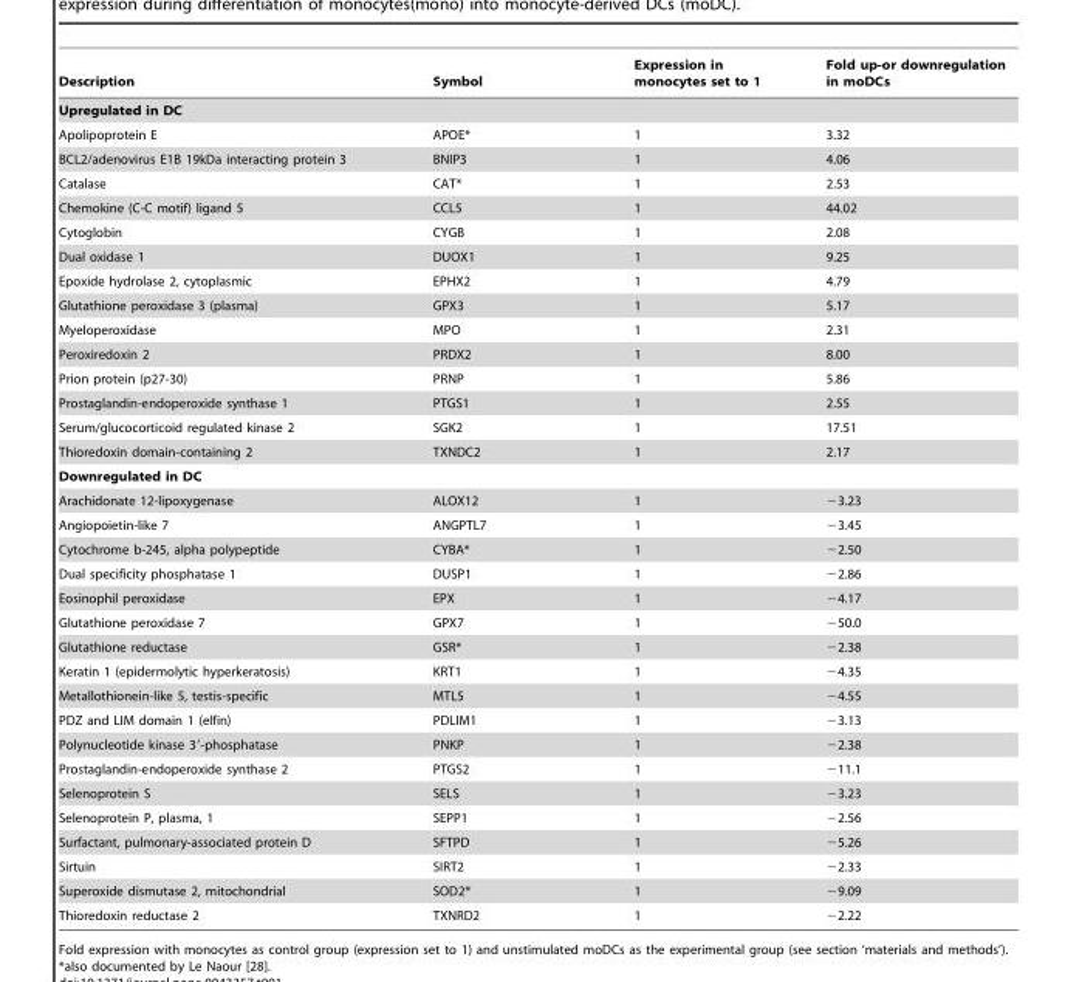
<table><thead><tr><td>Description</td><td>Symbol</td><td>Expression in monocytes set to 1</td><td>Fold up-or downregulation in moDCs</td></tr></thead><tbody><tr><td colspan="4">Upregulated in DC</td></tr><tr><td>Apolipoprotein E</td><td>APOE*</td><td>1</td><td>3.32</td></tr><tr><td>BCL2/adenovirus E1B 19kDa interacting protein 3</td><td>BNIP3</td><td>1</td><td>4.06</td></tr><tr><td>Catalase</td><td>CAT*</td><td>1</td><td>2.53</td></tr><tr><td>Chemokine (C-C motif) ligand 5</td><td>CCL5</td><td>1</td><td>44.02</td></tr><tr><td>Cytoglobin</td><td>CYGB</td><td>1</td><td>2.08</td></tr><tr><td>Dual oxidase 1</td><td>DUOX1</td><td>1</td><td>9.25</td></tr><tr><td>Epoxide hydrolase 2, cytoplasmic</td><td>EPHX2</td><td>1</td><td>4.79</td></tr><tr><td>Glutathione peroxidase 3 (plasma)</td><td>GPX3</td><td>1</td><td>5.17</td></tr><tr><td>Myeloperoxidase</td><td>MPO</td><td>1</td><td>2.31</td></tr><tr><td>Peroxiredoxin 2</td><td>PRDX2</td><td>1</td><td>8.00</td></tr><tr><td>Prion protein (p27-30)</td><td>PRNP</td><td>1</td><td>5.86</td></tr><tr><td>Prostaglandin-endoperoxide synthase 1</td><td>PTGS1</td><td>1</td><td>2.55</td></tr><tr><td>Serum/glucocorticoid regulated kinase 2</td><td>SGK2</td><td>1</td><td>17.51</td></tr><tr><td>Thioredoxin domain-containing 2</td><td>TXNDC2</td><td>1</td><td>2.17</td></tr><tr><td colspan="4">Downregulated in DC</td></tr><tr><td>Arachidonate 12-lipoxygenase</td><td>ALOX12</td><td>1</td><td>−3.23</td></tr><tr><td>Angiopoietin-like 7</td><td>ANGPTL7</td><td>1</td><td>−3.45</td></tr><tr><td>Cytochrome b-245, alpha polypeptide</td><td>CYBA*</td><td>1</td><td>−2.50</td></tr><tr><td>Dual specificity phosphatase 1</td><td>DUSP1</td><td>1</td><td>−2.86</td></tr><tr><td>Eosinophil peroxidase</td><td>EPX</td><td>1</td><td>−4.17</td></tr><tr><td>Glutathione peroxidase 7</td><td>GPX7</td><td>1</td><td>−50.0</td></tr><tr><td>Glutathione reductase</td><td>GSR*</td><td>1</td><td>−2.38</td></tr><tr><td>Keratin 1 (epidermolytic hyperkeratosis)</td><td>KRT1</td><td>1</td><td>−4.35</td></tr><tr><td>Metallothionein-like 5, testis-specific</td><td>MTL5</td><td>1</td><td>−4.55</td></tr><tr><td>PDZ and LIM domain 1 (elfin)</td><td>PDLIM1</td><td>1</td><td>−3.13</td></tr><tr><td>Polynucleotide kinase 3′-phosphatase</td><td>PNKP</td><td>1</td><td>−2.38</td></tr><tr><td>Prostaglandin-endoperoxide synthase 2</td><td>PTGS2</td><td>1</td><td>−11.1</td></tr><tr><td>Selenoprotein S</td><td>SELS</td><td>1</td><td>−3.23</td></tr><tr><td>Selenoprotein P, plasma, 1</td><td>SEPP1</td><td>1</td><td>−2.56</td></tr><tr><td>Surfactant, pulmonary-associated protein D</td><td>SFTPD</td><td>1</td><td>−5.26</td></tr><tr><td>Sirtuin</td><td>SIRT2</td><td>1</td><td>−2.33</td></tr><tr><td>Superoxide dismutase 2, mitochondrial</td><td>SOD2*</td><td>1</td><td>−9.09</td></tr><tr><td>Thioredoxin reductase 2</td><td>TXNRD2</td><td>1</td><td>−2.22</td></tr></tbody></table>